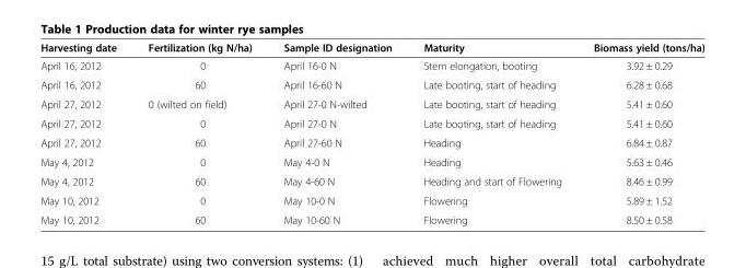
<table><thead><tr><td>Harvesting date</td><td>Fertilization (kg N/ha)</td><td>Sample ID designation</td><td>Maturity</td><td>Biomass yield (tons/ha)</td></tr></thead><tbody><tr><td>April 16, 2012</td><td>0</td><td>April 16-0 N</td><td>Stem elongation, booting</td><td>3.92 ± 0.29</td></tr><tr><td>April 16, 2012</td><td>60</td><td>April 16-60 N</td><td>Late booting, start of heading</td><td>6.28 ± 0.68</td></tr><tr><td>April 27, 2012</td><td>0 (wilted on field)</td><td>April 27-0 N-wilted</td><td>Late booting, start of heading</td><td>5.41 ± 0.60</td></tr><tr><td>April 27, 2012</td><td>0</td><td>April 27-0 N</td><td>Late booting, start of heading</td><td>5.41 ± 0.60</td></tr><tr><td>April 27, 2012</td><td>60</td><td>April 27-60 N</td><td>Heading</td><td>6.84 ± 0.87</td></tr><tr><td>May 4, 2012</td><td>0</td><td>May 4-0 N</td><td>Heading</td><td>5.63 ± 0.46</td></tr><tr><td>May 4, 2012</td><td>60</td><td>May 4-60 N</td><td>Heading and start of Flowering</td><td>8.46 ± 0.99</td></tr><tr><td>May 10, 2012</td><td>0</td><td>May 10-0 N</td><td>Flowering</td><td>5.89 ± 1.52</td></tr><tr><td>May 10, 2012</td><td>60</td><td>May 10-60 N</td><td>Flowering</td><td>8.50 ± 0.58</td></tr></tbody></table>